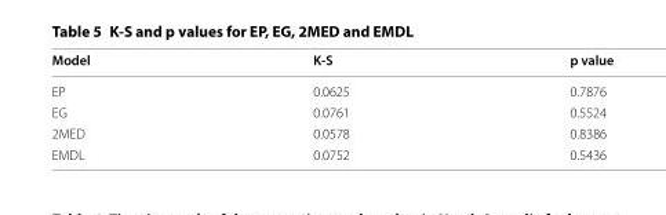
<table><thead><tr><td>Model</td><td>K-S</td><td>p value</td></tr></thead><tbody><tr><td>EP</td><td>0.0625</td><td>0.7876</td></tr><tr><td>EG</td><td>0.0761</td><td>0.5524</td></tr><tr><td>2MED</td><td>0.0578</td><td>0.8386</td></tr><tr><td>EMDL</td><td>0.0752</td><td>0.5436</td></tr></tbody></table>